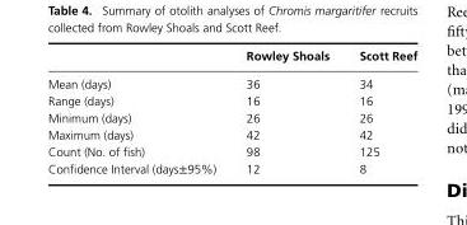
<table><thead><tr><td></td><td>Rowley Shoals</td><td>Scott Reef</td></tr></thead><tbody><tr><td>Mean (days)</td><td>36</td><td>34</td></tr><tr><td>Range (days)</td><td>16</td><td>16</td></tr><tr><td>Minimum (days)</td><td>26</td><td>26</td></tr><tr><td>Maximum (days)</td><td>42</td><td>42</td></tr><tr><td>Count (No. of fish)</td><td>98</td><td>125</td></tr><tr><td>Confidence Interval (days±95%)</td><td>12</td><td>8</td></tr></tbody></table>